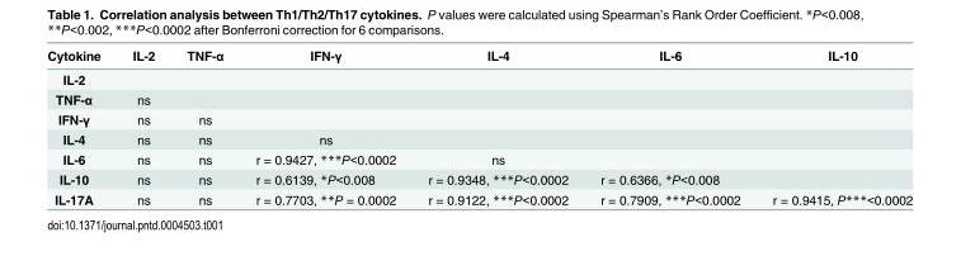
<table><thead><tr><td>Cytokine</td><td>IL-2</td><td>TNF-α</td><td>IFN-γ</td><td>IL-4</td><td>IL-6</td><td>IL-10</td></tr></thead><tbody><tr><td colspan="7">IL-2</td></tr><tr><td>TNF-α</td><td>ns</td><td></td><td></td><td></td><td></td><td></td></tr><tr><td>IFN-γ</td><td>ns</td><td>ns</td><td></td><td></td><td></td><td></td></tr><tr><td>IL-4</td><td>ns</td><td>ns</td><td>ns</td><td></td><td></td><td></td></tr><tr><td>IL-6</td><td>ns</td><td>ns</td><td>r = 0.9427, ***P&lt;0.0002</td><td>ns</td><td></td><td></td></tr><tr><td>IL-10</td><td>ns</td><td>ns</td><td>r = 0.6139, *P&lt;0.008</td><td>r = 0.9348, ***P&lt;0.0002</td><td>r = 0.6366, *P&lt;0.008</td><td></td></tr><tr><td>IL-17A</td><td>ns</td><td>ns</td><td>r = 0.7703, **P = 0.0002</td><td>r = 0.9122, ***P&lt;0.0002</td><td>r = 0.7909, ***P&lt;0.0002</td><td>r = 0.9415, P***&lt;0.0002</td></tr></tbody></table>